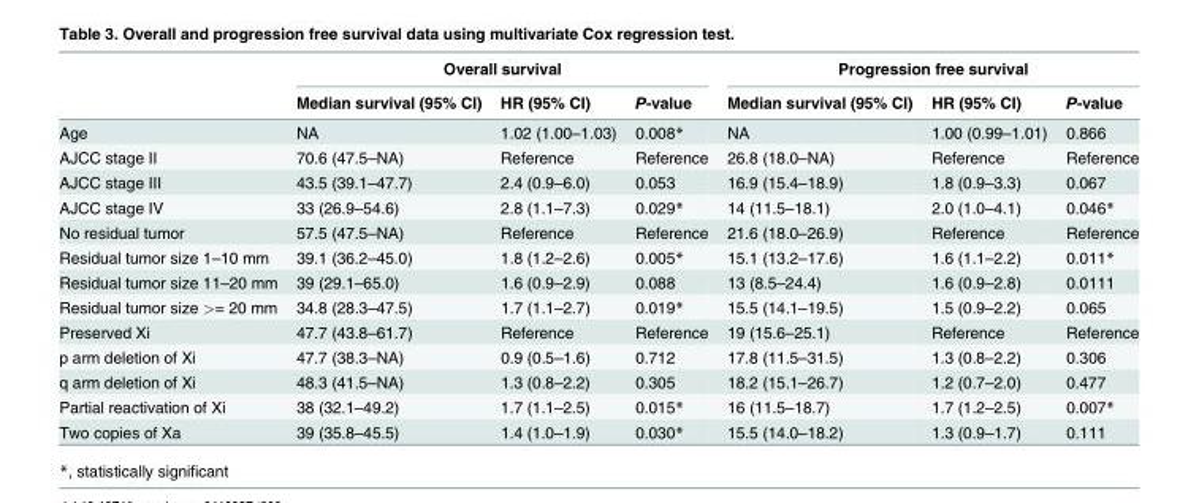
<table><thead><tr><td rowspan="2"></td><td colspan="3">Overall survival</td><td colspan="3">Progression free survival</td></tr><tr><td>Median survival (95% CI)</td><td>HR (95% CI)</td><td>P-value</td><td>Median survival (95% CI)</td><td>HR (95% CI)</td><td>P-value</td></tr></thead><tbody><tr><td>Age</td><td>NA</td><td>1.02 (1.00–1.03)</td><td>0.008*</td><td>NA</td><td>1.00 (0.99–1.01)</td><td>0.866</td></tr><tr><td>AJCC stage II</td><td>70.6 (47.5–NA)</td><td>Reference</td><td>Reference</td><td>26.8 (18.0–NA)</td><td>Reference</td><td>Reference</td></tr><tr><td>AJCC stage III</td><td>43.5 (39.1–47.7)</td><td>2.4 (0.9–6.0)</td><td>0.053</td><td>16.9 (15.4–18.9)</td><td>1.8 (0.9–3.3)</td><td>0.067</td></tr><tr><td>AJCC stage IV</td><td>33 (26.9–54.6)</td><td>2.8 (1.1–7.3)</td><td>0.029*</td><td>14 (11.5–18.1)</td><td>2.0 (1.0–4.1)</td><td>0.046*</td></tr><tr><td>No residual tumor</td><td>57.5 (47.5–NA)</td><td>Reference</td><td>Reference</td><td>21.6 (18.0–26.9)</td><td>Reference</td><td>Reference</td></tr><tr><td>Residual tumor size 1–10 mm</td><td>39.1 (36.2–45.0)</td><td>1.8 (1.2–2.6)</td><td>0.005*</td><td>15.1 (13.2–17.6)</td><td>1.6 (1.1–2.2)</td><td>0.011*</td></tr><tr><td>Residual tumor size 11–20 mm</td><td>39 (29.1–65.0)</td><td>1.6 (0.9–2.9)</td><td>0.088</td><td>13 (8.5–24.4)</td><td>1.6 (0.9–2.8)</td><td>0.0111</td></tr><tr><td>Residual tumor size &gt;= 20 mm</td><td>34.8 (28.3–47.5)</td><td>1.7 (1.1–2.7)</td><td>0.019*</td><td>15.5 (14.1–19.5)</td><td>1.5 (0.9–2.2)</td><td>0.065</td></tr><tr><td>Preserved Xi</td><td>47.7 (43.8–61.7)</td><td>Reference</td><td>Reference</td><td>19 (15.6–25.1)</td><td>Reference</td><td>Reference</td></tr><tr><td>p arm deletion of Xi</td><td>47.7 (38.3–NA)</td><td>0.9 (0.5–1.6)</td><td>0.712</td><td>17.8 (11.5–31.5)</td><td>1.3 (0.8–2.2)</td><td>0.306</td></tr><tr><td>q arm deletion of Xi</td><td>48.3 (41.5–NA)</td><td>1.3 (0.8–2.2)</td><td>0.305</td><td>18.2 (15.1–26.7)</td><td>1.2 (0.7–2.0)</td><td>0.477</td></tr><tr><td>Partial reactivation of Xi</td><td>38 (32.1–49.2)</td><td>1.7 (1.1–2.5)</td><td>0.015*</td><td>16 (11.5–18.7)</td><td>1.7 (1.2–2.5)</td><td>0.007*</td></tr><tr><td>Two copies of Xa</td><td>39 (35.8–45.5)</td><td>1.4 (1.0–1.9)</td><td>0.030*</td><td>15.5 (14.0–18.2)</td><td>1.3 (0.9–1.7)</td><td>0.111</td></tr></tbody></table>